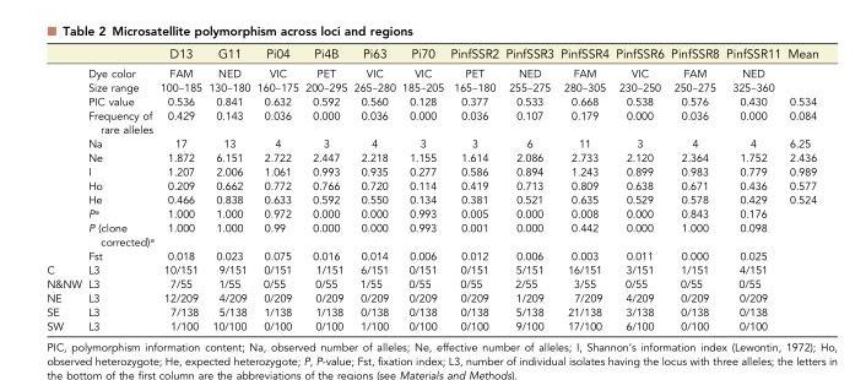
<table><thead><tr><td></td><td></td><td>D13</td><td>G11</td><td>Pi04</td><td>Pi4B</td><td>Pi63</td><td>Pi70</td><td>PinfSSR2</td><td>PinfSSR3</td><td>PinfSSR4</td><td>PinfSSR6</td><td>PinfSSR8</td><td>PinfSSR11</td><td>Mean</td></tr></thead><tbody><tr><td></td><td>Dye color</td><td>FAM</td><td>NED</td><td>VIC</td><td>PET</td><td>VIC</td><td>VIC</td><td>PET</td><td>NED</td><td>FAM</td><td>VIC</td><td>FAM</td><td>NED</td><td></td></tr><tr><td></td><td>Size range</td><td>100–185</td><td>130–180</td><td>160–175</td><td>200–295</td><td>265–280</td><td>185–205</td><td>165–180</td><td>255–275</td><td>280–305</td><td>230–250</td><td>250–275</td><td>325–360</td><td></td></tr><tr><td></td><td>PIC value</td><td>0.536</td><td>0.841</td><td>0.632</td><td>0.592</td><td>0.560</td><td>0.128</td><td>0.377</td><td>0.533</td><td>0.668</td><td>0.538</td><td>0.576</td><td>0.430</td><td>0.534</td></tr><tr><td></td><td>Frequency of rare alleles</td><td>0.429</td><td>0.143</td><td>0.036</td><td>0.000</td><td>0.036</td><td>0.000</td><td>0.036</td><td>0.107</td><td>0.179</td><td>0.000</td><td>0.036</td><td>0.000</td><td>0.084</td></tr><tr><td></td><td>Na</td><td>17</td><td>13</td><td>4</td><td>3</td><td>4</td><td>3</td><td>3</td><td>6</td><td>11</td><td>3</td><td>4</td><td>4</td><td>6.25</td></tr><tr><td></td><td>Ne</td><td>1.872</td><td>6.151</td><td>2.722</td><td>2.447</td><td>2.218</td><td>1.155</td><td>1.614</td><td>2.086</td><td>2.733</td><td>2.120</td><td>2.364</td><td>1.752</td><td>2.436</td></tr><tr><td></td><td>I</td><td>1.207</td><td>2.006</td><td>1.061</td><td>0.993</td><td>0.935</td><td>0.277</td><td>0.586</td><td>0.894</td><td>1.243</td><td>0.899</td><td>0.983</td><td>0.779</td><td>0.989</td></tr><tr><td></td><td>Ho</td><td>0.209</td><td>0.662</td><td>0.772</td><td>0.766</td><td>0.720</td><td>0.114</td><td>0.419</td><td>0.713</td><td>0.809</td><td>0.638</td><td>0.671</td><td>0.436</td><td>0.577</td></tr><tr><td></td><td>He</td><td>0.466</td><td>0.838</td><td>0.633</td><td>0.592</td><td>0.550</td><td>0.134</td><td>0.381</td><td>0.521</td><td>0.635</td><td>0.529</td><td>0.578</td><td>0.429</td><td>0.524</td></tr><tr><td></td><td>P<sup>a</sup></td><td>1.000</td><td>1.000</td><td>0.972</td><td>0.000</td><td>0.000</td><td>0.993</td><td>0.005</td><td>0.000</td><td>0.008</td><td>0.000</td><td>0.843</td><td>0.176</td><td></td></tr><tr><td></td><td>P (clone corrected)<sup>a</sup></td><td>1.000</td><td>1.000</td><td>0.99</td><td>0.000</td><td>0.000</td><td>0.993</td><td>0.001</td><td>0.000</td><td>0.442</td><td>0.000</td><td>1.000</td><td>0.098</td><td></td></tr><tr><td></td><td>Fst</td><td>0.018</td><td>0.023</td><td>0.075</td><td>0.016</td><td>0.014</td><td>0.006</td><td>0.012</td><td>0.006</td><td>0.003</td><td>0.011</td><td>0.000</td><td>0.025</td><td></td></tr><tr><td>C</td><td>L3</td><td>10/151</td><td>9/151</td><td>0/151</td><td>1/151</td><td>6/151</td><td>0/151</td><td>0/151</td><td>5/151</td><td>16/151</td><td>3/151</td><td>1/151</td><td>4/151</td><td></td></tr><tr><td>N&amp;NW</td><td>L3</td><td>7/55</td><td>1/55</td><td>0/55</td><td>0/55</td><td>1/55</td><td>0/55</td><td>0/55</td><td>2/55</td><td>3/55</td><td>0/55</td><td>0/55</td><td>0/55</td><td></td></tr><tr><td>NE</td><td>L3</td><td>12/209</td><td>4/209</td><td>0/209</td><td>0/209</td><td>0/209</td><td>0/209</td><td>0/209</td><td>1/209</td><td>7/209</td><td>4/209</td><td>0/209</td><td>0/209</td><td></td></tr><tr><td>SE</td><td>L3</td><td>7/138</td><td>5/138</td><td>1/138</td><td>1/138</td><td>0/138</td><td>0/138</td><td>0/138</td><td>5/138</td><td>21/138</td><td>3/138</td><td>0/138</td><td>0/138</td><td></td></tr><tr><td>SW</td><td>L3</td><td>1/100</td><td>10/100</td><td>0/100</td><td>0/100</td><td>1/100</td><td>0/100</td><td>0/100</td><td>9/100</td><td>17/100</td><td>6/100</td><td>0/100</td><td>0/100</td><td></td></tr></tbody></table>